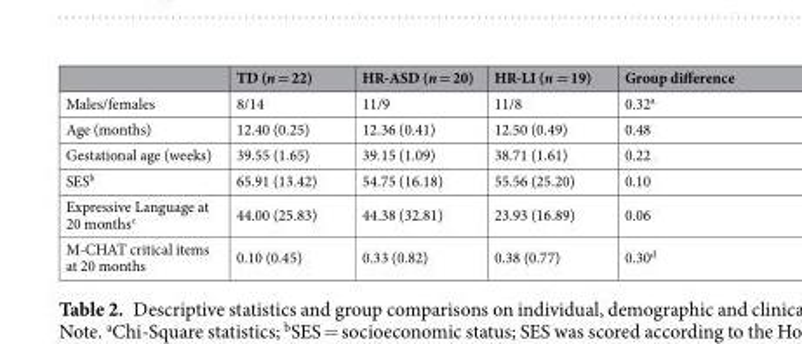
<table><thead><tr><td></td><td>TD (n = 22)</td><td>HR-ASD (n = 20)</td><td>HR-LI (n = 19)</td><td>Group difference</td></tr></thead><tbody><tr><td>Males/females</td><td>8/14</td><td>11/9</td><td>11/8</td><td>0.32<sup>a</sup></td></tr><tr><td>Age (months)</td><td>12.40 (0.25)</td><td>12.36 (0.41)</td><td>12.50 (0.49)</td><td>0.48</td></tr><tr><td>Gestational age (weeks)</td><td>39.55 (1.65)</td><td>39.15 (1.09)</td><td>38.71 (1.61)</td><td>0.22</td></tr><tr><td>SES<sup>b</sup></td><td>65.91 (13.42)</td><td>54.75 (16.18)</td><td>55.56 (25.20)</td><td>0.10</td></tr><tr><td>Expressive Language at 20 months<sup>c</sup></td><td>44.00 (25.83)</td><td>44.38 (32.81)</td><td>23.93 (16.89)</td><td>0.06</td></tr><tr><td>M-CHAT critical items at 20 months</td><td>0.10 (0.45)</td><td>0.33 (0.82)</td><td>0.38 (0.77)</td><td>0.30<sup>d</sup></td></tr></tbody></table>